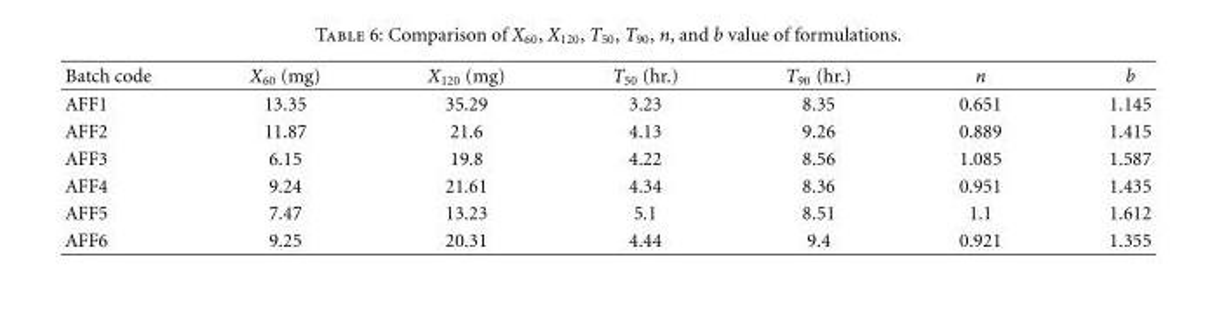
<table><thead><tr><td>Batch code</td><td>X<sub>60</sub> (mg)</td><td>X<sub>120</sub> (mg)</td><td>T<sub>50</sub> (hr.)</td><td>T<sub>90</sub> (hr.)</td><td>n</td><td>b</td></tr></thead><tbody><tr><td>AFF1</td><td>13.35</td><td>35.29</td><td>3.23</td><td>8.35</td><td>0.651</td><td>1.145</td></tr><tr><td>AFF2</td><td>11.87</td><td>21.6</td><td>4.13</td><td>9.26</td><td>0.889</td><td>1.415</td></tr><tr><td>AFF3</td><td>6.15</td><td>19.8</td><td>4.22</td><td>8.56</td><td>1.085</td><td>1.587</td></tr><tr><td>AFF4</td><td>9.24</td><td>21.61</td><td>4.34</td><td>8.36</td><td>0.951</td><td>1.435</td></tr><tr><td>AFF5</td><td>7.47</td><td>13.23</td><td>5.1</td><td>8.51</td><td>1.1</td><td>1.612</td></tr><tr><td>AFF6</td><td>9.25</td><td>20.31</td><td>4.44</td><td>9.4</td><td>0.921</td><td>1.355</td></tr></tbody></table>